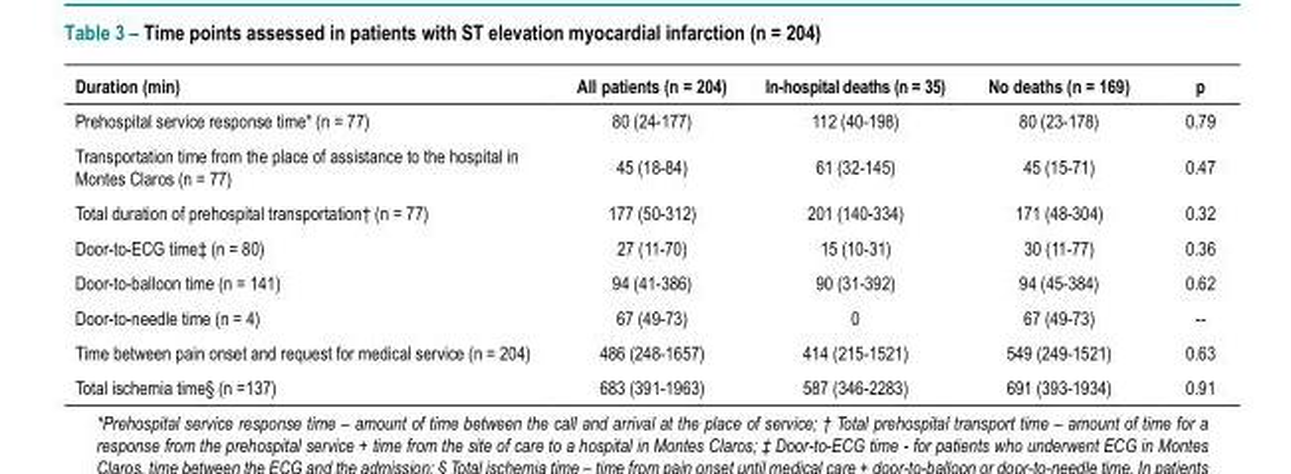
<table><thead><tr><td>Duration (min)</td><td>All patients (n = 204)</td><td>In-hospital deaths (n = 35)</td><td>No deaths (n = 169)</td><td>p</td></tr></thead><tbody><tr><td>Prehospital service response time* (n = 77)</td><td>80 (24-177)</td><td>112 (40-198)</td><td>80 (23-178)</td><td>0.79</td></tr><tr><td>Transportation time from the place of assistance to the hospital in Montes Claros (n = 77)</td><td>45 (18-84)</td><td>61 (32-145)</td><td>45 (15-71)</td><td>0.47</td></tr><tr><td>Total duration of prehospital transportation† (n = 77)</td><td>177 (50-312)</td><td>201 (140-334)</td><td>171 (48-304)</td><td>0.32</td></tr><tr><td>Door-to-ECG time‡ (n = 80)</td><td>27 (11-70)</td><td>15 (10-31)</td><td>30 (11-77)</td><td>0.36</td></tr><tr><td>Door-to-balloon time (n = 141)</td><td>94 (41-386)</td><td>90 (31-392)</td><td>94 (45-384)</td><td>0.62</td></tr><tr><td>Door-to-needle time (n = 4)</td><td>67 (49-73)</td><td>0</td><td>67 (49-73)</td><td>--</td></tr><tr><td>Time between pain onset and request for medical service (n = 204)</td><td>486 (248-1657)</td><td>414 (215-1521)</td><td>549 (249-1521)</td><td>0.63</td></tr><tr><td>Total ischemia time§ (n =137)</td><td>683 (391-1963)</td><td>587 (346-2283)</td><td>691 (393-1934)</td><td>0.91</td></tr></tbody></table>